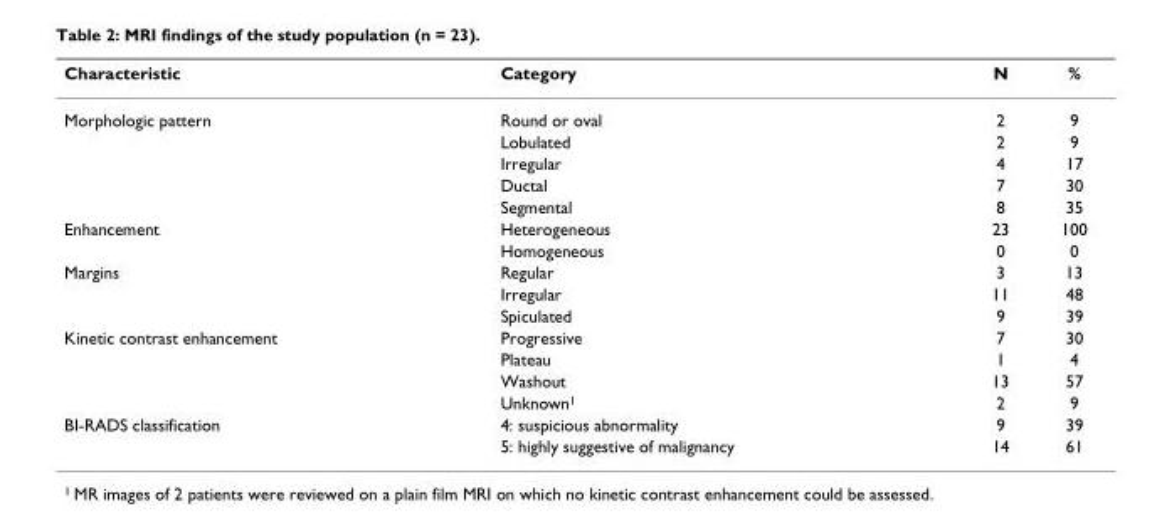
<table><thead><tr><td>Characteristic</td><td>Category</td><td>N</td><td>%</td></tr></thead><tbody><tr><td rowspan="5">Morphologic pattern</td><td>Round or oval</td><td>2</td><td>9</td></tr><tr><td>Lobulated</td><td>2</td><td>9</td></tr><tr><td>Irregular</td><td>4</td><td>17</td></tr><tr><td>Ductal</td><td>7</td><td>30</td></tr><tr><td>Segmental</td><td>8</td><td>35</td></tr><tr><td rowspan="2">Enhancement</td><td>Heterogeneous</td><td>23</td><td>100</td></tr><tr><td>Homogeneous</td><td>0</td><td>0</td></tr><tr><td rowspan="3">Margins</td><td>Regular</td><td>3</td><td>13</td></tr><tr><td>Irregular</td><td>11</td><td>48</td></tr><tr><td>Spiculated</td><td>9</td><td>39</td></tr><tr><td rowspan="4">Kinetic contrast enhancement</td><td>Progressive</td><td>7</td><td>30</td></tr><tr><td>Plateau</td><td>1</td><td>4</td></tr><tr><td>Washout</td><td>13</td><td>57</td></tr><tr><td>Unknown<sup>1</sup></td><td>2</td><td>9</td></tr><tr><td rowspan="2">BI-RADS classification</td><td>4: suspicious abnormality</td><td>9</td><td>39</td></tr><tr><td>5: highly suggestive of malignancy</td><td>14</td><td>61</td></tr></tbody></table>